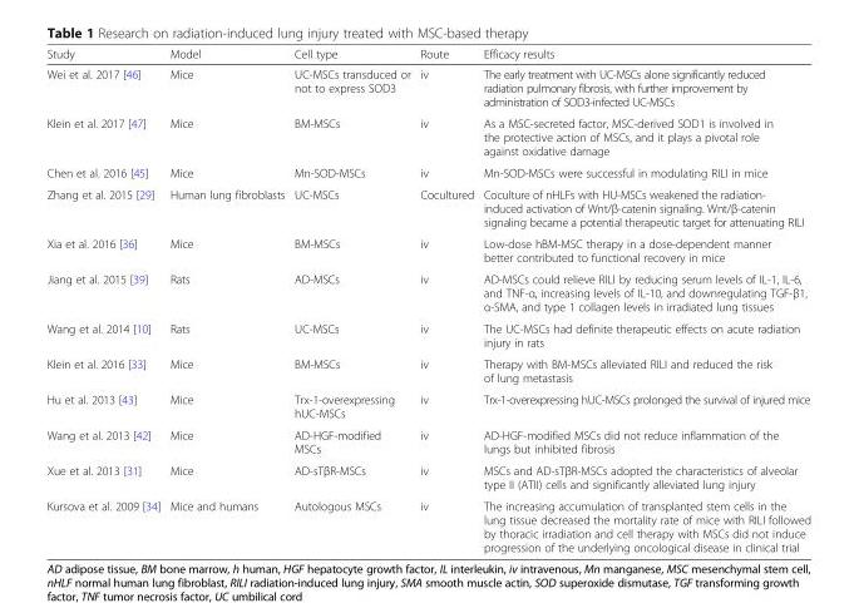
<table><thead><tr><td>Study</td><td>Model</td><td>Cell type</td><td>Route</td><td>Efficacy results</td></tr></thead><tbody><tr><td>Wei et al. 2017 [46]</td><td>Mice</td><td>UC-MSCs transduced or not to express SOD3</td><td>iv</td><td>The early treatment with UC-MSCs alone significantly reduced radiation pulmonary fibrosis, with further improvement by administration of SOD3-infected UC-MSCs</td></tr><tr><td>Klein et al. 2017 [47]</td><td>Mice</td><td>BM-MSCs</td><td>iv</td><td>As a MSC-secreted factor, MSC-derived SOD1 is involved in the protective action of MSCs, and it plays a pivotal role against oxidative damage</td></tr><tr><td>Chen et al. 2016 [45]</td><td>Mice</td><td>Mn-SOD-MSCs</td><td>iv</td><td>Mn-SOD-MSCs were successful in modulating RILI in mice</td></tr><tr><td>Zhang et al. 2015 [29]</td><td>Human lung fibroblasts</td><td>UC-MSCs</td><td>Cocultured</td><td>Coculture of nHLFs with HU-MSCs weakened the radiation- induced activation of Wnt/β-catenin signaling. Wnt/β-catenin signaling became a potential therapeutic target for attenuating RILI</td></tr><tr><td>Xia et al. 2016 [36]</td><td>Mice</td><td>BM-MSCs</td><td>iv</td><td>Low-dose hBM-MSC therapy in a dose-dependent manner better contributed to functional recovery in mice</td></tr><tr><td>Jiang et al. 2015 [39]</td><td>Rats</td><td>AD-MSCs</td><td>iv</td><td>AD-MSCs could relieve RILI by reducing serum levels of IL-1, IL-6, and TNF-α, increasing levels of IL-10, and downregulating TGF-β1, α-SMA, and type 1 collagen levels in irradiated lung tissues</td></tr><tr><td>Wang et al. 2014 [10]</td><td>Rats</td><td>UC-MSCs</td><td>iv</td><td>The UC-MSCs had definite therapeutic effects on acute radiation injury in rats</td></tr><tr><td>Klein et al. 2016 [33]</td><td>Mice</td><td>BM-MSCs</td><td>iv</td><td>Therapy with BM-MSCs alleviated RILI and reduced the risk of lung metastasis</td></tr><tr><td>Hu et al. 2013 [43]</td><td>Mice</td><td>Trx-1-overexpressing hUC-MSCs</td><td>iv</td><td>Trx-1-overexpressing hUC-MSCs prolonged the survival of injured mice</td></tr><tr><td>Wang et al. 2013 [42]</td><td>Mice</td><td>AD-HGF-modified MSCs</td><td>iv</td><td>AD-HGF-modified MSCs did not reduce inflammation of the lungs but inhibited fibrosis</td></tr><tr><td>Xue et al. 2013 [31]</td><td>Mice</td><td>AD-sTβR-MSCs</td><td>iv</td><td>MSCs and AD-sTβR-MSCs adopted the characteristics of alveolar type II (ATII) cells and significantly alleviated lung injury</td></tr><tr><td>Kursova et al. 2009 [34]</td><td>Mice and humans</td><td>Autologous MSCs</td><td>iv</td><td>The increasing accumulation of transplanted stem cells in the lung tissue decreased the mortality rate of mice with RILI followed by thoracic irradiation and cell therapy with MSCs did not induce progression of the underlying oncological disease in clinical trial</td></tr></tbody></table>